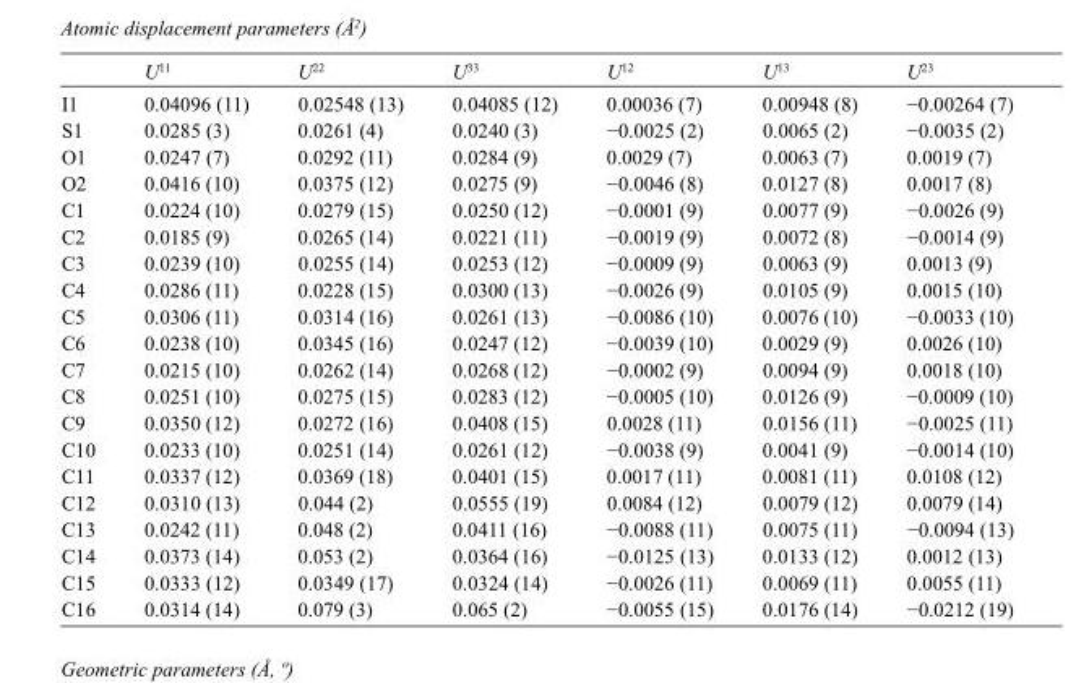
<table><thead><tr><td></td><td>U<sup>11</sup></td><td>U<sup>22</sup></td><td>U<sup>33</sup></td><td>U<sup>12</sup></td><td>U<sup>13</sup></td><td>U<sup>23</sup></td></tr></thead><tbody><tr><td>I1</td><td>0.04096 (11)</td><td>0.02548 (13)</td><td>0.04085 (12)</td><td>0.00036 (7)</td><td>0.00948 (8)</td><td>−0.00264 (7)</td></tr><tr><td>S1</td><td>0.0285 (3)</td><td>0.0261 (4)</td><td>0.0240 (3)</td><td>−0.0025 (2)</td><td>0.0065 (2)</td><td>−0.0035 (2)</td></tr><tr><td>O1</td><td>0.0247 (7)</td><td>0.0292 (11)</td><td>0.0284 (9)</td><td>0.0029 (7)</td><td>0.0063 (7)</td><td>0.0019 (7)</td></tr><tr><td>O2</td><td>0.0416 (10)</td><td>0.0375 (12)</td><td>0.0275 (9)</td><td>−0.0046 (8)</td><td>0.0127 (8)</td><td>0.0017 (8)</td></tr><tr><td>C1</td><td>0.0224 (10)</td><td>0.0279 (15)</td><td>0.0250 (12)</td><td>−0.0001 (9)</td><td>0.0077 (9)</td><td>−0.0026 (9)</td></tr><tr><td>C2</td><td>0.0185 (9)</td><td>0.0265 (14)</td><td>0.0221 (11)</td><td>−0.0019 (9)</td><td>0.0072 (8)</td><td>−0.0014 (9)</td></tr><tr><td>C3</td><td>0.0239 (10)</td><td>0.0255 (14)</td><td>0.0253 (12)</td><td>−0.0009 (9)</td><td>0.0063 (9)</td><td>0.0013 (9)</td></tr><tr><td>C4</td><td>0.0286 (11)</td><td>0.0228 (15)</td><td>0.0300 (13)</td><td>−0.0026 (9)</td><td>0.0105 (9)</td><td>0.0015 (10)</td></tr><tr><td>C5</td><td>0.0306 (11)</td><td>0.0314 (16)</td><td>0.0261 (13)</td><td>−0.0086 (10)</td><td>0.0076 (10)</td><td>−0.0033 (10)</td></tr><tr><td>C6</td><td>0.0238 (10)</td><td>0.0345 (16)</td><td>0.0247 (12)</td><td>−0.0039 (10)</td><td>0.0029 (9)</td><td>0.0026 (10)</td></tr><tr><td>C7</td><td>0.0215 (10)</td><td>0.0262 (14)</td><td>0.0268 (12)</td><td>−0.0002 (9)</td><td>0.0094 (9)</td><td>0.0018 (10)</td></tr><tr><td>C8</td><td>0.0251 (10)</td><td>0.0275 (15)</td><td>0.0283 (12)</td><td>−0.0005 (10)</td><td>0.0126 (9)</td><td>−0.0009 (10)</td></tr><tr><td>C9</td><td>0.0350 (12)</td><td>0.0272 (16)</td><td>0.0408 (15)</td><td>0.0028 (11)</td><td>0.0156 (11)</td><td>−0.0025 (11)</td></tr><tr><td>C10</td><td>0.0233 (10)</td><td>0.0251 (14)</td><td>0.0261 (12)</td><td>−0.0038 (9)</td><td>0.0041 (9)</td><td>−0.0014 (10)</td></tr><tr><td>C11</td><td>0.0337 (12)</td><td>0.0369 (18)</td><td>0.0401 (15)</td><td>0.0017 (11)</td><td>0.0081 (11)</td><td>0.0108 (12)</td></tr><tr><td>C12</td><td>0.0310 (13)</td><td>0.044 (2)</td><td>0.0555 (19)</td><td>0.0084 (12)</td><td>0.0079 (12)</td><td>0.0079 (14)</td></tr><tr><td>C13</td><td>0.0242 (11)</td><td>0.048 (2)</td><td>0.0411 (16)</td><td>−0.0088 (11)</td><td>0.0075 (11)</td><td>−0.0094 (13)</td></tr><tr><td>C14</td><td>0.0373 (14)</td><td>0.053 (2)</td><td>0.0364 (16)</td><td>−0.0125 (13)</td><td>0.0133 (12)</td><td>0.0012 (13)</td></tr><tr><td>C15</td><td>0.0333 (12)</td><td>0.0349 (17)</td><td>0.0324 (14)</td><td>−0.0026 (11)</td><td>0.0069 (11)</td><td>0.0055 (11)</td></tr><tr><td>C16</td><td>0.0314 (14)</td><td>0.079 (3)</td><td>0.065 (2)</td><td>−0.0055 (15)</td><td>0.0176 (14)</td><td>−0.0212 (19)</td></tr></tbody></table>